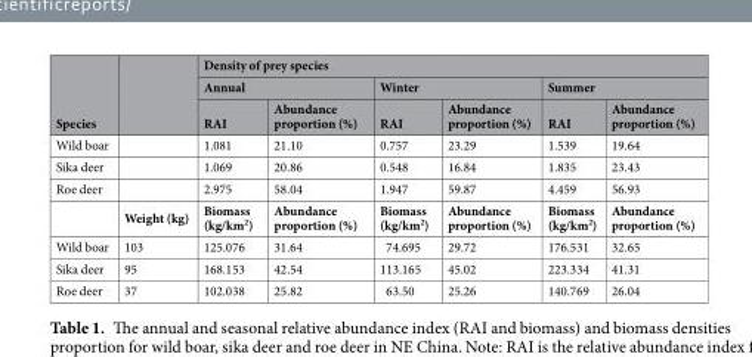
<table><thead><tr><td rowspan="3">Species</td><td rowspan="3"></td><td colspan="6">Density of prey species</td></tr><tr><td colspan="2">Annual</td><td colspan="2">Winter</td><td colspan="2">Summer</td></tr><tr><td>RAI</td><td>Abundance proportion (%)</td><td>RAI</td><td>Abundance proportion (%)</td><td>RAI</td><td>Abundance proportion (%)</td></tr></thead><tbody><tr><td>Wild boar</td><td></td><td>1.081</td><td>21.10</td><td>0.757</td><td>23.29</td><td>1.539</td><td>19.64</td></tr><tr><td>Sika deer</td><td></td><td>1.069</td><td>20.86</td><td>0.548</td><td>16.84</td><td>1.835</td><td>23.43</td></tr><tr><td rowspan="2">Roe deer</td><td></td><td>2.975</td><td>58.04</td><td>1.947</td><td>59.87</td><td>4.459</td><td>56.93</td></tr><tr><td>Weight (kg)</td><td>Biomass (kg/km<sup>2</sup>)</td><td>Abundance proportion (%)</td><td>Biomass (kg/km<sup>2</sup>)</td><td>Abundance proportion (%)</td><td>Biomass (kg/km<sup>2</sup>)</td><td>Abundance proportion (%)</td></tr><tr><td>Wild boar</td><td>103</td><td>125.076</td><td>31.64</td><td>74.695</td><td>29.72</td><td>176.531</td><td>32.65</td></tr><tr><td>Sika deer</td><td>95</td><td>168.153</td><td>42.54</td><td>113.165</td><td>45.02</td><td>223.334</td><td>41.31</td></tr><tr><td>Roe deer</td><td>37</td><td>102.038</td><td>25.82</td><td>63.50</td><td>25.26</td><td>140.769</td><td>26.04</td></tr></tbody></table>